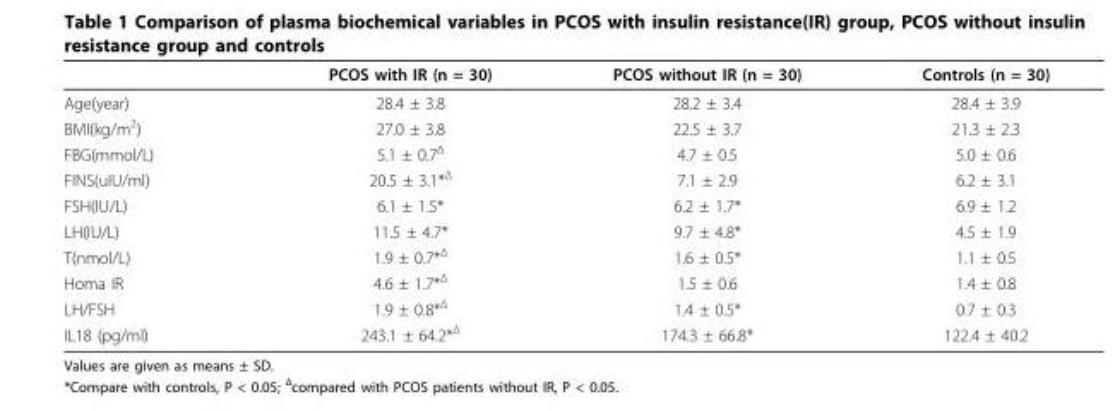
<table><thead><tr><td></td><td>PCOS with IR (n = 30)</td><td>PCOS without IR (n = 30)</td><td>Controls (n = 30)</td></tr></thead><tbody><tr><td>Age(year)</td><td>28.4 ± 3.8</td><td>28.2 ± 3.4</td><td>28.4 ± 3.9</td></tr><tr><td>BMI(kg/m<sup>2</sup>)</td><td>27.0 ± 3.8</td><td>22.5 ± 3.7</td><td>21.3 ± 2.3</td></tr><tr><td>FBG(mmol/L)</td><td>5.1 ± 0.7<sup>Δ</sup></td><td>4.7 ± 0.5</td><td>5.0 ± 0.6</td></tr><tr><td>FINS(uIU/ml)</td><td>20.5 ± 3.1*<sup>Δ</sup></td><td>7.1 ± 2.9</td><td>6.2 ± 3.1</td></tr><tr><td>FSH(IU/L)</td><td>6.1 ± 1.5*</td><td>6.2 ± 1.7*</td><td>6.9 ± 1.2</td></tr><tr><td>LH(IU/L)</td><td>11.5 ± 4.7*</td><td>9.7 ± 4.8*</td><td>4.5 ± 1.9</td></tr><tr><td>T(nmol/L)</td><td>1.9 ± 0.7*<sup>Δ</sup></td><td>1.6 ± 0.5*</td><td>1.1 ± 0.5</td></tr><tr><td>Homa IR</td><td>4.6 ± 1.7*<sup>Δ</sup></td><td>1.5 ± 0.6</td><td>1.4 ± 0.8</td></tr><tr><td>LH/FSH</td><td>1.9 ± 0.8*<sup>Δ</sup></td><td>1.4 ± 0.5*</td><td>0.7 ± 0.3</td></tr><tr><td>IL18 (pg/ml)</td><td>243.1 ± 64.2*<sup>Δ</sup></td><td>174.3 ± 66.8*</td><td>122.4 ± 40.2</td></tr></tbody></table>